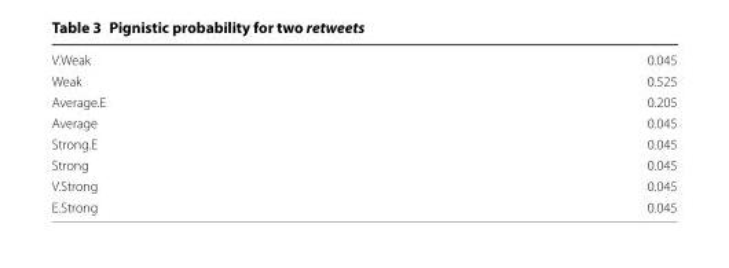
<table><tbody><tr><td>V.Weak</td><td>0.045</td></tr><tr><td>Weak</td><td>0.525</td></tr><tr><td>Average.E</td><td>0.205</td></tr><tr><td>Average</td><td>0.045</td></tr><tr><td>Strong.E</td><td>0.045</td></tr><tr><td>Strong</td><td>0.045</td></tr><tr><td>V.Strong</td><td>0.045</td></tr><tr><td>E.Strong</td><td>0.045</td></tr></tbody></table>